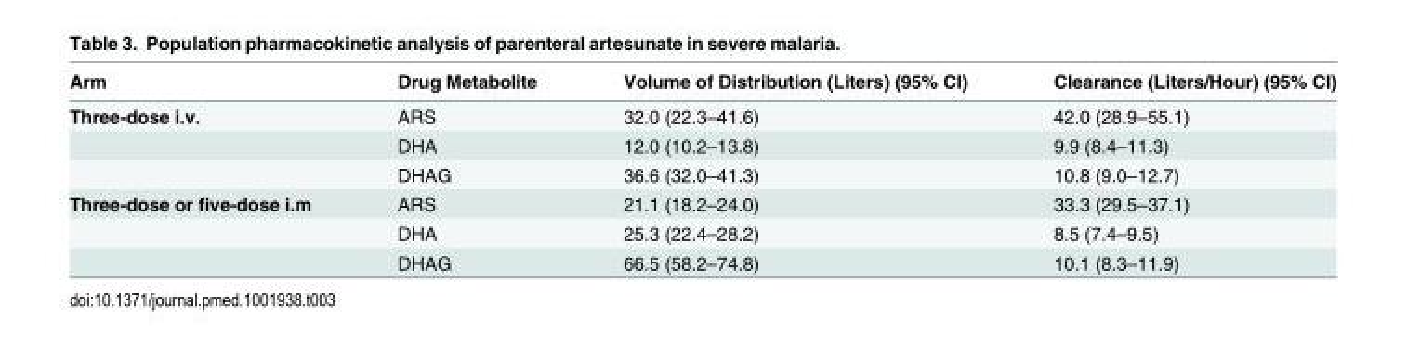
<table><thead><tr><td>Arm</td><td>Drug Metabolite</td><td>Volume of Distribution (Liters) (95% CI)</td><td>Clearance (Liters/Hour) (95% CI)</td></tr></thead><tbody><tr><td rowspan="3">Three-dose i.v.</td><td>ARS</td><td>32.0 (22.3–41.6)</td><td>42.0 (28.9–55.1)</td></tr><tr><td>DHA</td><td>12.0 (10.2–13.8)</td><td>9.9 (8.4–11.3)</td></tr><tr><td>DHAG</td><td>36.6 (32.0–41.3)</td><td>10.8 (9.0–12.7)</td></tr><tr><td rowspan="3">Three-dose or five-dose i.m</td><td>ARS</td><td>21.1 (18.2–24.0)</td><td>33.3 (29.5–37.1)</td></tr><tr><td>DHA</td><td>25.3 (22.4–28.2)</td><td>8.5 (7.4–9.5)</td></tr><tr><td>DHAG</td><td>66.5 (58.2–74.8)</td><td>10.1 (8.3–11.9)</td></tr></tbody></table>